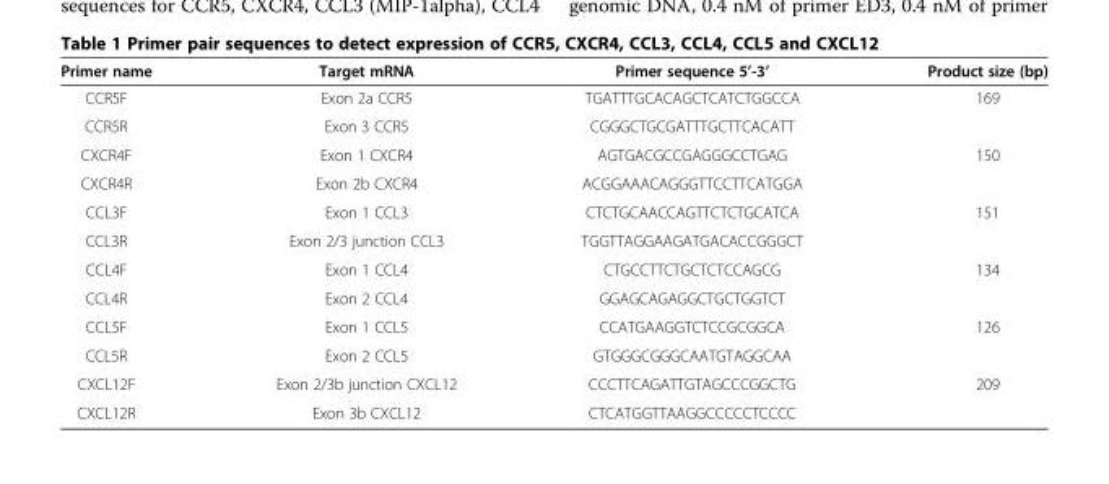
<table><thead><tr><td>Primer name</td><td>Target mRNA</td><td>Primer sequence 5’-3’</td><td>Product size (bp)</td></tr></thead><tbody><tr><td>CCR5F</td><td>Exon 2a CCR5</td><td>TGATTTGCACAGCTCATCTGGCCA</td><td rowspan="2">169</td></tr><tr><td>CCR5R</td><td>Exon 3 CCR5</td><td>CGGGCTGCGATTTGCTTCACATT</td></tr><tr><td>CXCR4F</td><td>Exon 1 CXCR4</td><td>AGTGACGCCGAGGGCCTGAG</td><td rowspan="2">150</td></tr><tr><td>CXCR4R</td><td>Exon 2b CXCR4</td><td>ACGGAAACAGGGTTCCTTCATGGA</td></tr><tr><td>CCL3F</td><td>Exon 1 CCL3</td><td>CTCTGCAACCAGTTCTCTGCATCA</td><td rowspan="2">151</td></tr><tr><td>CCL3R</td><td>Exon 2/3 junction CCL3</td><td>TGGTTAGGAAGATGACACCGGGCT</td></tr><tr><td>CCL4F</td><td>Exon 1 CCL4</td><td>CTGCCTTCTGCTCTCCAGCG</td><td rowspan="2">134</td></tr><tr><td>CCL4R</td><td>Exon 2 CCL4</td><td>GGAGCAGAGGCTGCTGGTCT</td></tr><tr><td>CCL5F</td><td>Exon 1 CCL5</td><td>CCATGAAGGTCTCCGCGGCA</td><td rowspan="2">126</td></tr><tr><td>CCL5R</td><td>Exon 2 CCL5</td><td>GTGGGCGGGCAATGTAGGCAA</td></tr><tr><td>CXCL12F</td><td>Exon 2/3b junction CXCL12</td><td>CCCTTCAGATTGTAGCCCGGCTG</td><td rowspan="2">209</td></tr><tr><td>CXCL12R</td><td>Exon 3b CXCL12</td><td>CTCATGGTTAAGGCCCCCTCCCC</td></tr></tbody></table>